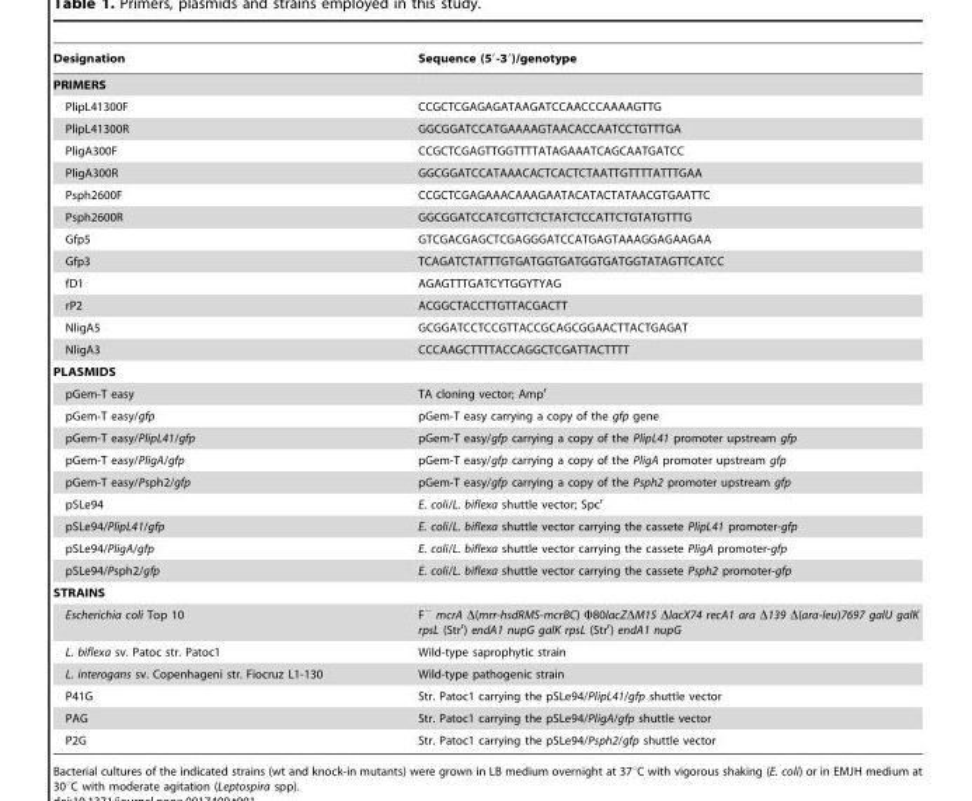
<table><thead><tr><td>Designation</td><td>Sequence (5′-3′)/genotype</td></tr></thead><tbody><tr><td colspan="2">PRIMERS</td></tr><tr><td>PlipL41300F</td><td>CCGCTCGAGAGATAAGATCCAACCCAAAAGTTG</td></tr><tr><td>PlipL41300R</td><td>GGCGGATCCATGAAAAGTAACACCAATCCTGTTTGA</td></tr><tr><td>PligA300F</td><td>CCGCTCGAGTTGGTTTTATAGAAATCAGCAATGATCC</td></tr><tr><td>PligA300R</td><td>GGCGGATCCATAAACACTCACTCTAATTGTTTTATTTGAA</td></tr><tr><td>Psph2600F</td><td>CCGCTCGAGAAACAAAGAATACATACTATAACGTGAATTC</td></tr><tr><td>Psph2600R</td><td>GGCGGATCCATCGTTCTCTATCTCCATTCTGTATGTTTG</td></tr><tr><td>Gfp5</td><td>GTCGACGAGCTCGAGGGATCCATGAGTAAAGGAGAAGAA</td></tr><tr><td>Gfp3</td><td>TCAGATCTATTTGTGATGGTGATGGTGATGGTATAGTTCATCC</td></tr><tr><td>fD1</td><td>AGAGTTTGATCYTGGYTYAG</td></tr><tr><td>rP2</td><td>ACGGCTACCTTGTTACGACTT</td></tr><tr><td>NligA5</td><td>GCGGATCCTCCGTTACCGCAGCGGAACTTACTGAGAT</td></tr><tr><td>NligA3</td><td>CCCAAGCTTTTACCAGGCTCGATTACTTTT</td></tr><tr><td colspan="2">PLASMIDS</td></tr><tr><td>pGem-T easy</td><td>TA cloning vector; Amp<sup>r</sup></td></tr><tr><td>pGem-T easy/gfp</td><td>pGem-T easy carrying a copy of the gfp gene</td></tr><tr><td>pGem-T easy/PlipL41/gfp</td><td>pGem-T easy/gfp carrying a copy of the PlipL41 promoter upstream gfp</td></tr><tr><td>pGem-T easy/PligA/gfp</td><td>pGem-T easy/gfp carrying a copy of the PligA promoter upstream gfp</td></tr><tr><td>pGem-T easy/Psph2/gfp</td><td>pGem-T easy/gfp carrying a copy of the Psph2 promoter upstream gfp</td></tr><tr><td>pSLe94</td><td>E. coli/L. biflexa shuttle vector; Spc<sup>r</sup></td></tr><tr><td>pSLe94/PlipL41/gfp</td><td>E. coli/L. biflexa shuttle vector carrying the cassete PlipL41 promoter-gfp</td></tr><tr><td>pSLe94/PligA/gfp</td><td>E. coli/L. biflexa shuttle vector carrying the cassete PligA promoter-gfp</td></tr><tr><td>pSLe94/Psph2/gfp</td><td>E. coli/L. biflexa shuttle vector carrying the cassete Psph2 promoter-gfp</td></tr><tr><td colspan="2">STRAINS</td></tr><tr><td>Escherichia coli Top 10</td><td>F<sup>−</sup> mcrA Δ(mrr-hsdRMS-mcrBC) Φ80lacZΔM15 ΔlacX74 recA1 ara Δ139 Δ(ara-leu)7697 galU galK rpsL (Str<sup>r</sup>) endA1 nupG galK rpsL (Str<sup>r</sup>) endA1 nupG</td></tr><tr><td>L. biflexa sv. Patoc str. Patoc1</td><td>Wild-type saprophytic strain</td></tr><tr><td>L. interogans sv. Copenhageni str. Fiocruz L1-130</td><td>Wild-type pathogenic strain</td></tr><tr><td>P41G</td><td>Str. Patoc1 carrying the pSLe94/PlipL41/gfp shuttle vector</td></tr><tr><td>PAG</td><td>Str. Patoc1 carrying the pSLe94/PligA/gfp shuttle vector</td></tr><tr><td>P2G</td><td>Str. Patoc1 carrying the pSLe94/Psph2/gfp shuttle vector</td></tr></tbody></table>